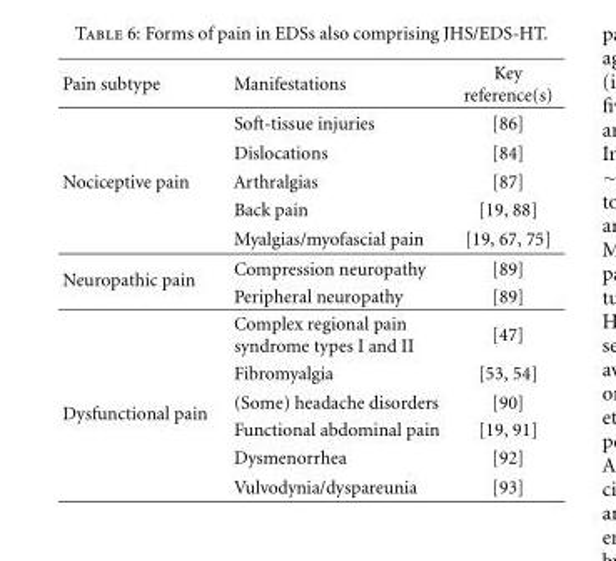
<table><thead><tr><td>Pain subtype</td><td>Manifestations</td><td>Key reference(s)</td></tr></thead><tbody><tr><td></td><td>Soft-tissue injuries</td><td>[86]</td></tr><tr><td></td><td>Dislocations</td><td>[84]</td></tr><tr><td rowspan="3">Nociceptive pain</td><td>Arthralgias</td><td>[87]</td></tr><tr><td>Back pain</td><td>[19, 88]</td></tr><tr><td>Myalgias/myofascial pain</td><td>[19, 67, 75]</td></tr><tr><td rowspan="4">Neuropathic pain</td><td>Compression neuropathy</td><td>[89]</td></tr><tr><td>Peripheral neuropathy</td><td>[89]</td></tr><tr><td>Complex regional pain syndrome types I and II</td><td>[47]</td></tr><tr><td>Fibromyalgia</td><td>[53, 54]</td></tr><tr><td rowspan="4">Dysfunctional pain</td><td>(Some) headache disorders</td><td>[90]</td></tr><tr><td>Functional abdominal pain</td><td>[19, 91]</td></tr><tr><td>Dysmenorrhea</td><td>[92]</td></tr><tr><td>Vulvodynia/dyspareunia</td><td>[93]</td></tr></tbody></table>